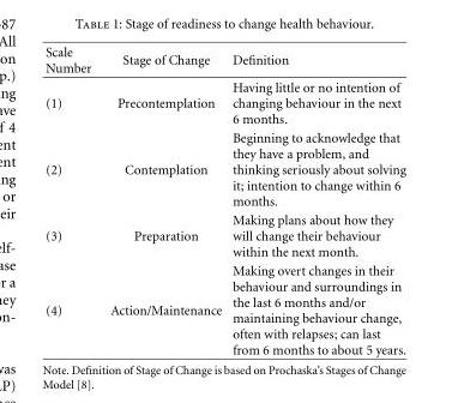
<table><thead><tr><td>Scale Number</td><td>Stage of Change</td><td>Definition</td></tr></thead><tbody><tr><td>(1)</td><td>Precontemplation</td><td>Having little or no intention of changing behaviour in the next 6 months.</td></tr><tr><td>(2)</td><td>Contemplation</td><td>Beginning to acknowledge that they have a problem, and thinking seriously about solving it; intention to change within 6 months.</td></tr><tr><td>(3)</td><td>Preparation</td><td>Making plans about how they will change their behaviour within the next month.</td></tr><tr><td>(4)</td><td>Action/Maintenance</td><td>Making overt changes in their behaviour and surroundings in the last 6 months and/or maintaining behaviour change, often with relapses; can last from 6 months to about 5 years.</td></tr></tbody></table>